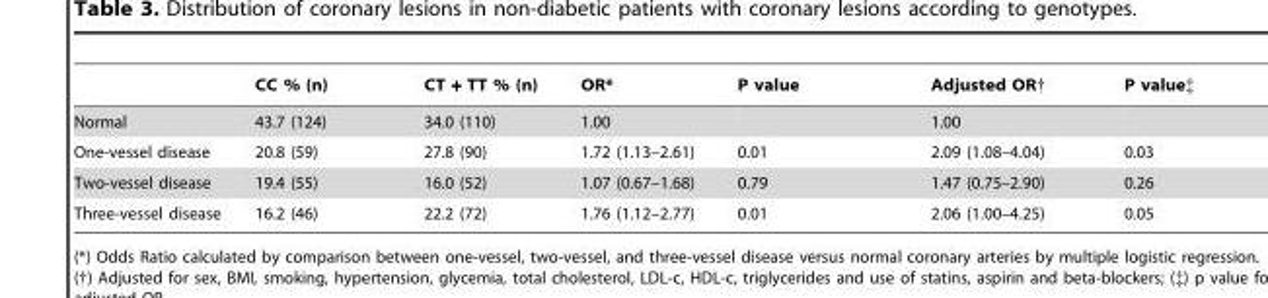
<table><thead><tr><td></td><td>CC % (n)</td><td>CT + TT % (n)</td><td>OR*</td><td>P value</td><td>Adjusted OR†</td><td>P value‡</td></tr></thead><tbody><tr><td>Normal</td><td>43.7 (124)</td><td>34.0 (110)</td><td>1.00</td><td></td><td>1.00</td><td></td></tr><tr><td>One-vessel disease</td><td>20.8 (59)</td><td>27.8 (90)</td><td>1.72 (1.13–2.61)</td><td>0.01</td><td>2.09 (1.08–4.04)</td><td>0.03</td></tr><tr><td>Two-vessel disease</td><td>19.4 (55)</td><td>16.0 (52)</td><td>1.07 (0.67–1.68)</td><td>0.79</td><td>1.47 (0.75–2.90)</td><td>0.26</td></tr><tr><td>Three-vessel disease</td><td>16.2 (46)</td><td>22.2 (72)</td><td>1.76 (1.12–2.77)</td><td>0.01</td><td>2.06 (1.00–4.25)</td><td>0.05</td></tr></tbody></table>